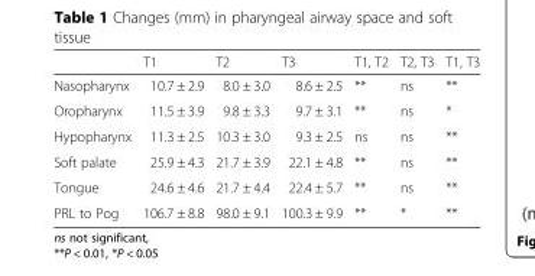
<table><thead><tr><td></td><td>T1</td><td>T2</td><td>T3</td><td>T1, T2</td><td>T2, T3</td><td>T1, T3</td></tr></thead><tbody><tr><td>Nasopharynx</td><td>10.7 ± 2.9</td><td>8.0 ± 3.0</td><td>8.6 ± 2.5</td><td>**</td><td>ns</td><td>**</td></tr><tr><td>Oropharynx</td><td>11.5 ± 3.9</td><td>9.8 ± 3.3</td><td>9.7 ± 3.1</td><td>**</td><td>ns</td><td>*</td></tr><tr><td>Hypopharynx</td><td>11.3 ± 2.5</td><td>10.3 ± 3.0</td><td>9.3 ± 2.5</td><td>ns</td><td>ns</td><td>**</td></tr><tr><td>Soft palate</td><td>25.9 ± 4.3</td><td>21.7 ± 3.9</td><td>22.1 ± 4.8</td><td>**</td><td>ns</td><td>**</td></tr><tr><td>Tongue</td><td>24.6 ± 4.6</td><td>21.7 ± 4.4</td><td>22.4 ± 5.7</td><td>**</td><td>ns</td><td>**</td></tr><tr><td>PRL to Pog</td><td>106.7 ± 8.8</td><td>98.0 ± 9.1</td><td>100.3 ± 9.9</td><td>**</td><td>*</td><td>**</td></tr></tbody></table>